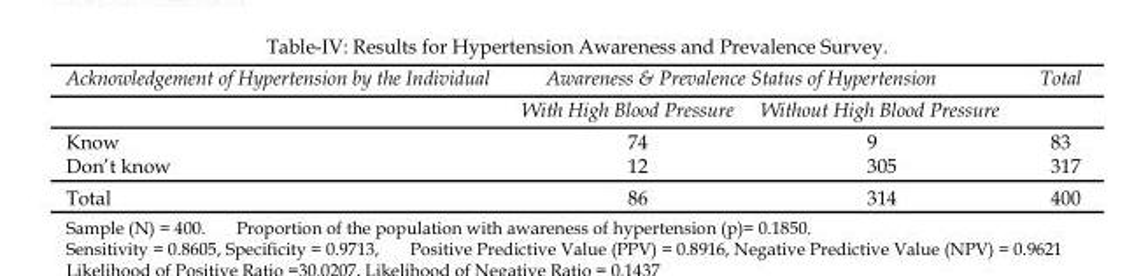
<table><thead><tr><td rowspan="2">Acknowledgement of Hypertension by the Individual</td><td colspan="2">Awareness &amp; Prevalence Status of Hypertension</td><td rowspan="2">Total</td></tr><tr><td>With High Blood Pressure</td><td>Without High Blood Pressure</td></tr></thead><tbody><tr><td>Know</td><td>74</td><td>9</td><td>83</td></tr><tr><td>Don’t know</td><td>12</td><td>305</td><td>317</td></tr><tr><td>Total</td><td>86</td><td>314</td><td>400</td></tr></tbody></table>